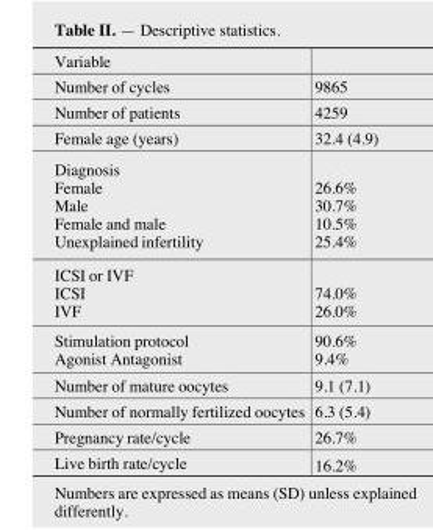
<table><thead><tr><td>Variable</td><td></td></tr></thead><tbody><tr><td>Number of cycles</td><td>9865</td></tr><tr><td>Number of patients</td><td>4259</td></tr><tr><td>Female age (years)</td><td>32.4 (4.9)</td></tr><tr><td>Diagnosis Female Male Female and male Unexplained infertility</td><td>26.6% 30.7% 10.5% 25.4%</td></tr><tr><td>ICSI or IVF ICSI IVF</td><td>74.0% 26.0%</td></tr><tr><td>Stimulation protocol Agonist Antagonist</td><td>90.6% 9.4%</td></tr><tr><td>Number of mature oocytes</td><td>9.1 (7.1)</td></tr><tr><td>Number of normally fertilized oocytes</td><td>6.3 (5.4)</td></tr><tr><td>Pregnancy rate/cycle</td><td>26.7%</td></tr><tr><td>Live birth rate/cycle</td><td>16.2%</td></tr></tbody></table>